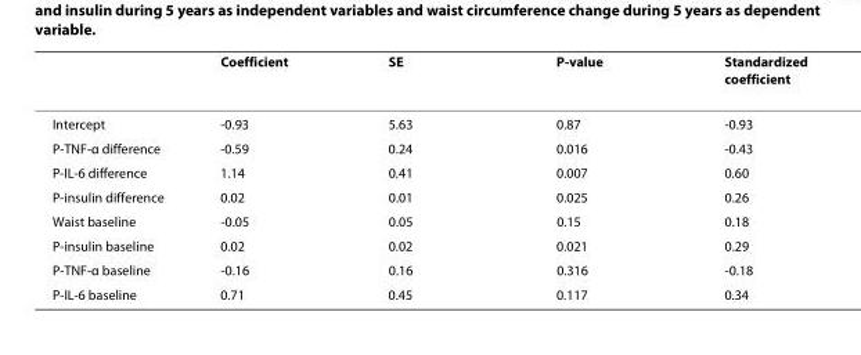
<table><thead><tr><td></td><td>Coefficient</td><td>SE</td><td>P-value</td><td>Standardized coefficient</td></tr></thead><tbody><tr><td>Intercept</td><td>-0.93</td><td>5.63</td><td>0.87</td><td>-0.93</td></tr><tr><td>P-TNF-α difference</td><td>-0.59</td><td>0.24</td><td>0.016</td><td>-0.43</td></tr><tr><td>P-IL-6 difference</td><td>1.14</td><td>0.41</td><td>0.007</td><td>0.60</td></tr><tr><td>P-insulin difference</td><td>0.02</td><td>0.01</td><td>0.025</td><td>0.26</td></tr><tr><td>Waist baseline</td><td>-0.05</td><td>0.05</td><td>0.15</td><td>0.18</td></tr><tr><td>P-insulin baseline</td><td>0.02</td><td>0.02</td><td>0.021</td><td>0.29</td></tr><tr><td>P-TNF-α baseline</td><td>-0.16</td><td>0.16</td><td>0.316</td><td>-0.18</td></tr><tr><td>P-IL-6 baseline</td><td>0.71</td><td>0.45</td><td>0.117</td><td>0.34</td></tr></tbody></table>